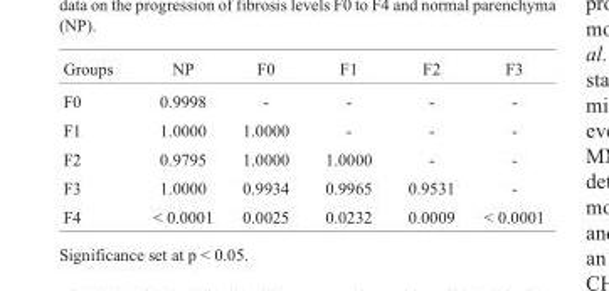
<table><thead><tr><td>Groups</td><td>NP</td><td>F0</td><td>F1</td><td>F2</td><td>F3</td></tr></thead><tbody><tr><td>F0</td><td>0.9998</td><td>-</td><td>-</td><td>-</td><td>-</td></tr><tr><td>F1</td><td>1.0000</td><td>1.0000</td><td>-</td><td>-</td><td>-</td></tr><tr><td>F2</td><td>0.9795</td><td>1.0000</td><td>1.0000</td><td>-</td><td>-</td></tr><tr><td>F3</td><td>1.0000</td><td>0.9934</td><td>0.9965</td><td>0.9531</td><td>-</td></tr><tr><td>F4</td><td>&lt; 0.0001</td><td>0.0025</td><td>0.0232</td><td>0.0009</td><td>&lt; 0.0001</td></tr></tbody></table>